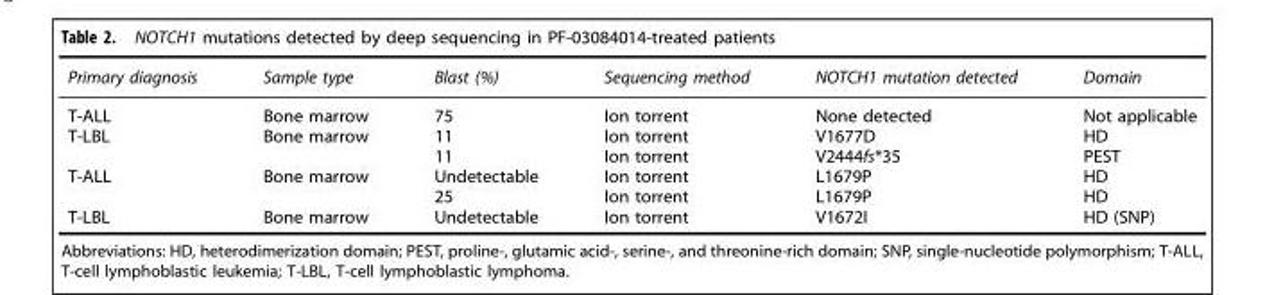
<table><thead><tr><td>Primary diagnosis</td><td>Sample type</td><td>Blast (%)</td><td>Sequencing method</td><td>NOTCH1 mutation detected</td><td>Domain</td></tr></thead><tbody><tr><td>T-ALL</td><td>Bone marrow</td><td>75</td><td>Ion torrent</td><td>None detected</td><td>Not applicable</td></tr><tr><td rowspan="2">T-LBL</td><td>Bone marrow</td><td>11</td><td>Ion torrent</td><td>V1677D</td><td>HD</td></tr><tr><td></td><td>11</td><td>Ion torrent</td><td>V2444fs*35</td><td>PEST</td></tr><tr><td rowspan="2">T-ALL</td><td>Bone marrow</td><td>Undetectable</td><td>Ion torrent</td><td>L1679P</td><td>HD</td></tr><tr><td></td><td>25</td><td>Ion torrent</td><td>L1679P</td><td>HD</td></tr><tr><td>T-LBL</td><td>Bone marrow</td><td>Undetectable</td><td>Ion torrent</td><td>V1672I</td><td>HD (SNP)</td></tr></tbody></table>